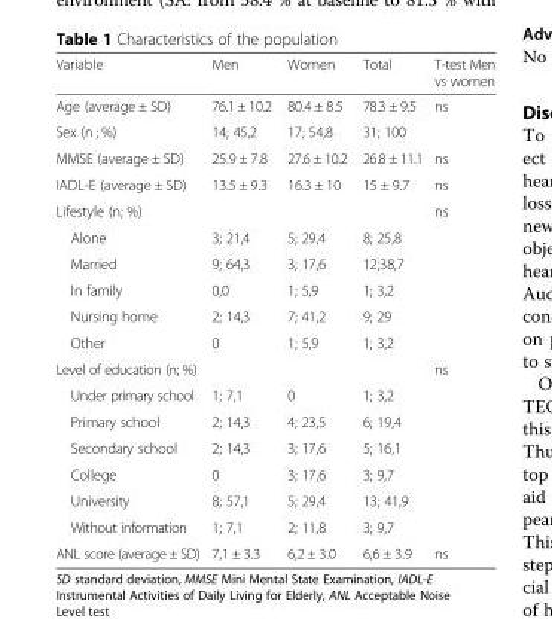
<table><thead><tr><td>Variable</td><td>Men</td><td>Women</td><td>Total</td><td>T-test Men vs women</td></tr></thead><tbody><tr><td>Age (average ± SD)</td><td>76.1 ± 10.2</td><td>80.4 ± 8.5</td><td>78.3 ± 9.5</td><td>ns</td></tr><tr><td>Sex (n ; %)</td><td>14; 45,2</td><td>17; 54,8</td><td>31; 100</td><td></td></tr><tr><td>MMSE (average ± SD)</td><td>25.9 ± 7.8</td><td>27.6 ± 10.2</td><td>26.8 ± 11.1</td><td>ns</td></tr><tr><td>IADL-E (average ± SD)</td><td>13.5 ± 9.3</td><td>16.3 ± 10</td><td>15 ± 9.7</td><td>ns</td></tr><tr><td>Lifestyle (n; %)</td><td></td><td></td><td></td><td>ns</td></tr><tr><td>Alone</td><td>3; 21,4</td><td>5; 29,4</td><td>8; 25,8</td><td></td></tr><tr><td>Married</td><td>9; 64,3</td><td>3; 17,6</td><td>12;38,7</td><td></td></tr><tr><td>In family</td><td>0,0</td><td>1; 5,9</td><td>1; 3,2</td><td></td></tr><tr><td>Nursing home</td><td>2; 14,3</td><td>7; 41,2</td><td>9; 29</td><td></td></tr><tr><td>Other</td><td>0</td><td>1; 5,9</td><td>1; 3,2</td><td></td></tr><tr><td>Level of education (n; %)</td><td></td><td></td><td></td><td>ns</td></tr><tr><td>Under primary school</td><td>1; 7,1</td><td>0</td><td>1; 3,2</td><td></td></tr><tr><td>Primary school</td><td>2; 14,3</td><td>4; 23,5</td><td>6; 19,4</td><td></td></tr><tr><td>Secondary school</td><td>2; 14,3</td><td>3; 17,6</td><td>5; 16,1</td><td></td></tr><tr><td>College</td><td>0</td><td>3; 17,6</td><td>3; 9,7</td><td></td></tr><tr><td>University</td><td>8; 57,1</td><td>5; 29,4</td><td>13; 41,9</td><td></td></tr><tr><td>Without information</td><td>1; 7,1</td><td>2; 11,8</td><td>3; 9,7</td><td></td></tr><tr><td>ANL score (average ± SD)</td><td>7,1 ± 3.3</td><td>6,2 ± 3.0</td><td>6,6 ± 3.9</td><td>ns</td></tr></tbody></table>